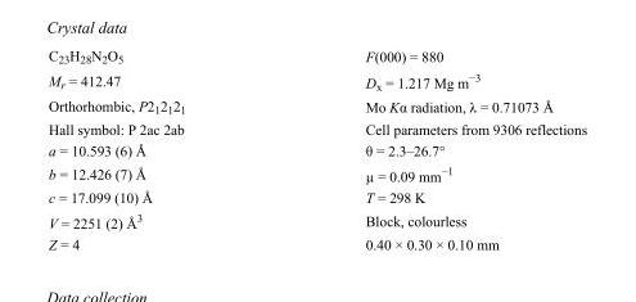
<table><tbody><tr><td>C<sub>23</sub>H<sub>28</sub>N<sub>2</sub>O<sub>5</sub></td><td>F(000) = 880</td></tr><tr><td>M<sub>r</sub> = 412.47</td><td>D<sub>x</sub> = 1.217 Mg m<sup>−3</sup></td></tr><tr><td>Orthorhombic, P2<sub>1</sub>2<sub>1</sub>2<sub>1</sub></td><td>Mo Kα radiation, λ = 0.71073 Å</td></tr><tr><td>Hall symbol: P 2ac 2ab</td><td>Cell parameters from 9306 reflections</td></tr><tr><td>a = 10.593 (6) Å</td><td>θ = 2.3–26.7°</td></tr><tr><td>b = 12.426 (7) Å</td><td>µ = 0.09 mm<sup>−1</sup></td></tr><tr><td>c = 17.099 (10) Å</td><td>T = 298 K</td></tr><tr><td>V = 2251 (2) Å<sup>3</sup></td><td>Block, colourless</td></tr><tr><td>Z = 4</td><td>0.40 × 0.30 × 0.10 mm</td></tr></tbody></table>